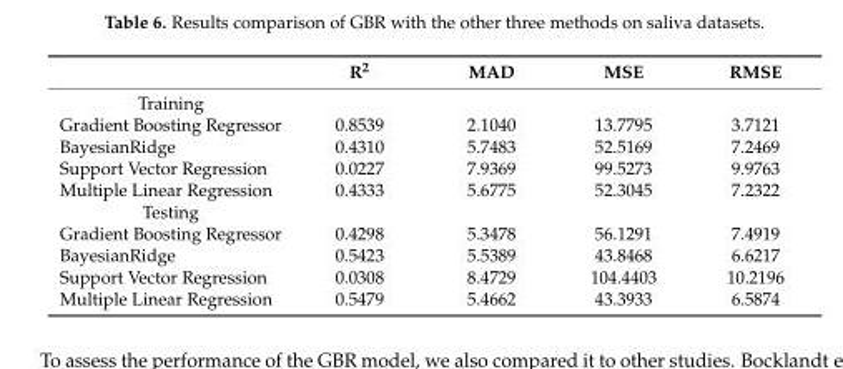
<table><thead><tr><td></td><td>R<sup>2</sup></td><td>MAD</td><td>MSE</td><td>RMSE</td></tr></thead><tbody><tr><td colspan="5">Training</td></tr><tr><td>Gradient Boosting Regressor</td><td>0.8539</td><td>2.1040</td><td>13.7795</td><td>3.7121</td></tr><tr><td>BayesianRidge</td><td>0.4310</td><td>5.7483</td><td>52.5169</td><td>7.2469</td></tr><tr><td>Support Vector Regression</td><td>0.0227</td><td>7.9369</td><td>99.5273</td><td>9.9763</td></tr><tr><td>Multiple Linear Regression</td><td>0.4333</td><td>5.6775</td><td>52.3045</td><td>7.2322</td></tr><tr><td colspan="5">Testing</td></tr><tr><td>Gradient Boosting Regressor</td><td>0.4298</td><td>5.3478</td><td>56.1291</td><td>7.4919</td></tr><tr><td>BayesianRidge</td><td>0.5423</td><td>5.5389</td><td>43.8468</td><td>6.6217</td></tr><tr><td>Support Vector Regression</td><td>0.0308</td><td>8.4729</td><td>104.4403</td><td>10.2196</td></tr><tr><td>Multiple Linear Regression</td><td>0.5479</td><td>5.4662</td><td>43.3933</td><td>6.5874</td></tr></tbody></table>